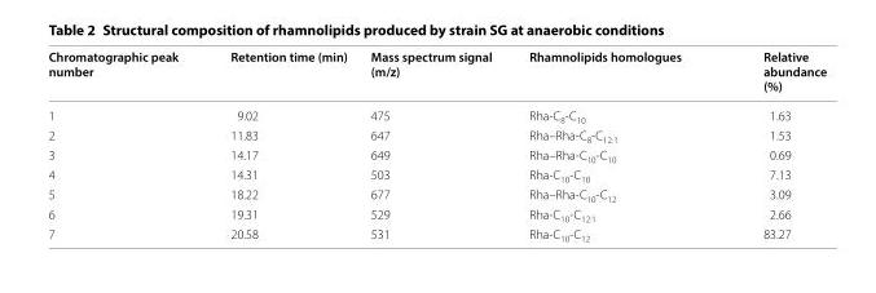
<table><thead><tr><td>Chromatographic peak number</td><td>Retention time (min)</td><td>Mass spectrum signal (m/z)</td><td>Rhamnolipids homologues</td><td>Relative abundance (%)</td></tr></thead><tbody><tr><td>1</td><td>9.02</td><td>475</td><td>Rha-C<sub>8</sub>-C<sub>10</sub></td><td>1.63</td></tr><tr><td>2</td><td>11.83</td><td>647</td><td>Rha–Rha-C<sub>8</sub>-C<sub>12:1</sub></td><td>1.53</td></tr><tr><td>3</td><td>14.17</td><td>649</td><td>Rha–Rha-C<sub>10</sub>-C<sub>10</sub></td><td>0.69</td></tr><tr><td>4</td><td>14.31</td><td>503</td><td>Rha-C<sub>10</sub>-C<sub>10</sub></td><td>7.13</td></tr><tr><td>5</td><td>18.22</td><td>677</td><td>Rha–Rha-C<sub>10</sub>-C<sub>12</sub></td><td>3.09</td></tr><tr><td>6</td><td>19.31</td><td>529</td><td>Rha-C<sub>10</sub>-C<sub>12:1</sub></td><td>2.66</td></tr><tr><td>7</td><td>20.58</td><td>531</td><td>Rha-C<sub>10</sub>-C<sub>12</sub></td><td>83.27</td></tr></tbody></table>